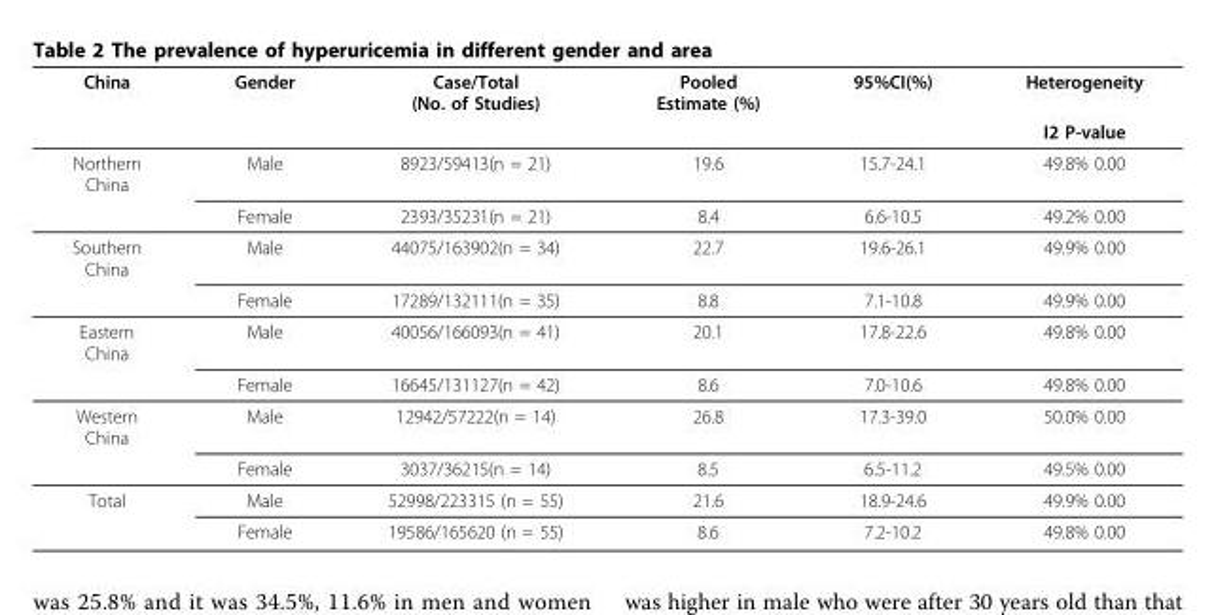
<table><thead><tr><td rowspan="2">China</td><td rowspan="2">Gender</td><td rowspan="2">Case/Total (No. of Studies)</td><td rowspan="2">Pooled Estimate (%)</td><td rowspan="2">95%CI(%)</td><td rowspan="2">Heterogeneity I2 P-value</td></tr><tr></tr></thead><tbody><tr><td rowspan="2">Northern China</td><td>Male</td><td>8923/59413(n = 21)</td><td>19.6</td><td>15.7-24.1</td><td>49.8% 0.00</td></tr><tr><td>Female</td><td>2393/35231(n = 21)</td><td>8.4</td><td>6.6-10.5</td><td>49.2% 0.00</td></tr><tr><td rowspan="2">Southern China</td><td>Male</td><td>44075/163902(n = 34)</td><td>22.7</td><td>19.6-26.1</td><td>49.9% 0.00</td></tr><tr><td>Female</td><td>17289/132111(n = 35)</td><td>8.8</td><td>7.1-10.8</td><td>49.9% 0.00</td></tr><tr><td rowspan="2">Eastern China</td><td>Male</td><td>40056/166093(n = 41)</td><td>20.1</td><td>17.8-22.6</td><td>49.8% 0.00</td></tr><tr><td>Female</td><td>16645/131127(n = 42)</td><td>8.6</td><td>7.0-10.6</td><td>49.8% 0.00</td></tr><tr><td rowspan="2">Western China</td><td>Male</td><td>12942/57222(n = 14)</td><td>26.8</td><td>17.3-39.0</td><td>50.0% 0.00</td></tr><tr><td>Female</td><td>3037/36215(n = 14)</td><td>8.5</td><td>6.5-11.2</td><td>49.5% 0.00</td></tr><tr><td rowspan="2">Total</td><td>Male</td><td>52998/223315 (n = 55)</td><td>21.6</td><td>18.9-24.6</td><td>49.9% 0.00</td></tr><tr><td>Female</td><td>19586/165620 (n = 55)</td><td>8.6</td><td>7.2-10.2</td><td>49.8% 0.00</td></tr></tbody></table>